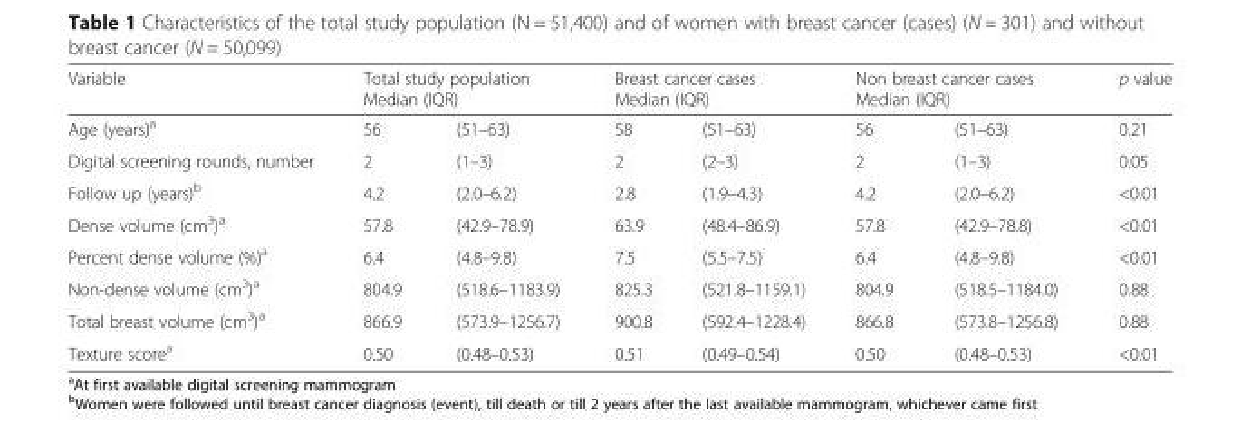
<table><thead><tr><td rowspan="2">Variable Age (years)<sup>a</sup></td><td colspan="2">Total study population Median (IQR)</td><td colspan="2">Breast cancer cases Median (IQR)</td><td colspan="2">Non breast cancer cases Median (IQR)</td><td rowspan="2">p value 0.21</td></tr><tr><td>56</td><td>(51–63)</td><td>58</td><td>(51–63)</td><td>56</td><td>(51–63)</td></tr></thead><tbody><tr><td>Digital screening rounds, number</td><td>2</td><td>(1–3)</td><td>2</td><td>(2–3)</td><td>2</td><td>(1–3)</td><td>0.05</td></tr><tr><td>Follow up (years)<sup>b</sup></td><td>4.2</td><td>(2.0–6.2)</td><td>2.8</td><td>(1.9–4.3)</td><td>4.2</td><td>(2.0–6.2)</td><td>&lt;0.01</td></tr><tr><td>Dense volume (cm<sup>3</sup>)<sup>a</sup></td><td>57.8</td><td>(42.9–78.9)</td><td>63.9</td><td>(48.4–86.9)</td><td>57.8</td><td>(42.9–78.8)</td><td>&lt;0.01</td></tr><tr><td>Percent dense volume (%)<sup>a</sup></td><td>6.4</td><td>(4.8–9.8)</td><td>7.5</td><td>(5.5–7.5)</td><td>6.4</td><td>(4.8–9.8)</td><td>&lt;0.01</td></tr><tr><td>Non-dense volume (cm<sup>3</sup>)<sup>a</sup></td><td>804.9</td><td>(518.6–1183.9)</td><td>825.3</td><td>(521.8–1159.1)</td><td>804.9</td><td>(518.5–1184.0)</td><td>0.88</td></tr><tr><td>Total breast volume (cm<sup>3</sup>)<sup>a</sup></td><td>866.9</td><td>(573.9–1256.7)</td><td>900.8</td><td>(592.4–1228.4)</td><td>866.8</td><td>(573.8–1256.8)</td><td>0.88</td></tr><tr><td>Texture score<sup>a</sup></td><td>0.50</td><td>(0.48–0.53)</td><td>0.51</td><td>(0.49–0.54)</td><td>0.50</td><td>(0.48–0.53)</td><td>&lt;0.01</td></tr></tbody></table>